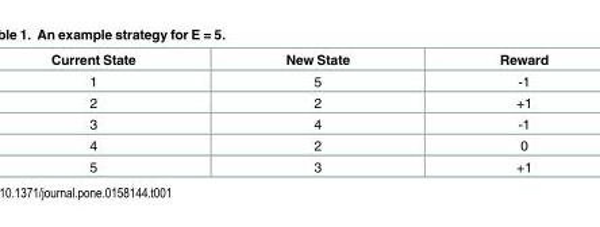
<table><thead><tr><td>Current State</td><td>New State</td><td>Reward</td></tr></thead><tbody><tr><td>1</td><td>5</td><td>-1</td></tr><tr><td>2</td><td>2</td><td>+1</td></tr><tr><td>3</td><td>4</td><td>-1</td></tr><tr><td>4</td><td>2</td><td>0</td></tr><tr><td>5</td><td>3</td><td>+1</td></tr></tbody></table>